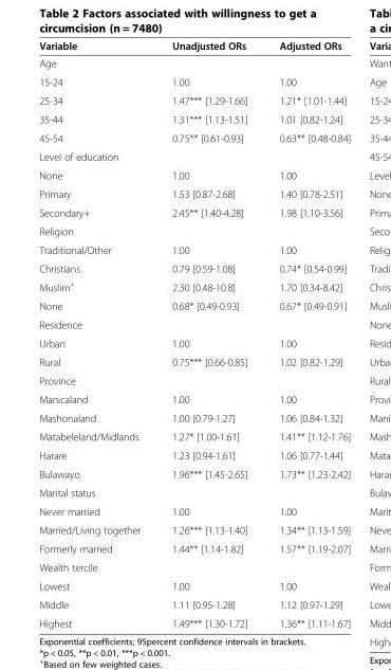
<table><thead><tr><td>Variable</td><td>Unadjusted ORs</td><td>Adjusted ORs</td></tr></thead><tbody><tr><td colspan="3">Age</td></tr><tr><td>15-24</td><td>1.00</td><td>1.00</td></tr><tr><td>25-34</td><td>1.47*** [1.29-1.66]</td><td>1.21* [1.01-1.44]</td></tr><tr><td>35-44</td><td>1.31*** [1.13-1.51]</td><td>1.01 [0.82-1.24]</td></tr><tr><td>45-54</td><td>0.75** [0.61-0.93]</td><td>0.63** [0.48-0.84]</td></tr><tr><td colspan="3">Level of education</td></tr><tr><td>None</td><td>1.00</td><td>1.00</td></tr><tr><td>Primary</td><td>1.53 [0.87-2.68]</td><td>1.40 [0.78-2.51]</td></tr><tr><td>Secondary+</td><td>2.45** [1.40-4.28]</td><td>1.98 [1.10-3.56]</td></tr><tr><td colspan="3">Religion</td></tr><tr><td>Traditional/Other</td><td>1.00</td><td>1.00</td></tr><tr><td>Christians</td><td>0.79 [0.59-1.08]</td><td>0.74* [0.54-0.99]</td></tr><tr><td>Muslim<sup>+</sup></td><td>2.30 [0.48-10.8]</td><td>1.70 [0.34-8.42]</td></tr><tr><td>None</td><td>0.68* [0.49-0.93]</td><td>0.67* [0.49-0.91]</td></tr><tr><td colspan="3">Residence</td></tr><tr><td>Urban</td><td>1.00</td><td>1.00</td></tr><tr><td>Rural</td><td>0.75*** [0.66-0.85]</td><td>1.02 [0.82-1.29]</td></tr><tr><td colspan="3">Province</td></tr><tr><td>Manicaland</td><td>1.00</td><td>1.00</td></tr><tr><td>Mashonaland</td><td>1.00 [0.79-1.27]</td><td>1.06 [0.84-1.32]</td></tr><tr><td>Matabeleland/Midlands</td><td>1.27* [1.00-1.61]</td><td>1.41** [1.12-1.76]</td></tr><tr><td>Harare</td><td>1.23 [0.94-1.61]</td><td>1.06 [0.77-1.44]</td></tr><tr><td>Bulawayo</td><td>1.96*** [1.45-2.65]</td><td>1.73** [1.23-2.42]</td></tr><tr><td colspan="3">Marital status</td></tr><tr><td>Never married</td><td>1.00</td><td>1.00</td></tr><tr><td>Married/Living together</td><td>1.26*** [1.13-1.40]</td><td>1.34** [1.13-1.59]</td></tr><tr><td>Formerly married</td><td>1.44** [1.14-1.82]</td><td>1.57** [1.19-2.07]</td></tr><tr><td colspan="3">Wealth tercile</td></tr><tr><td>Lowest</td><td>1.00</td><td>1.00</td></tr><tr><td>Middle</td><td>1.11 [0.95-1.28]</td><td>1.12 [0.97-1.29]</td></tr><tr><td>Highest</td><td>1.49*** [1.30-1.72]</td><td>1.36** [1.11-1.67]</td></tr></tbody></table>